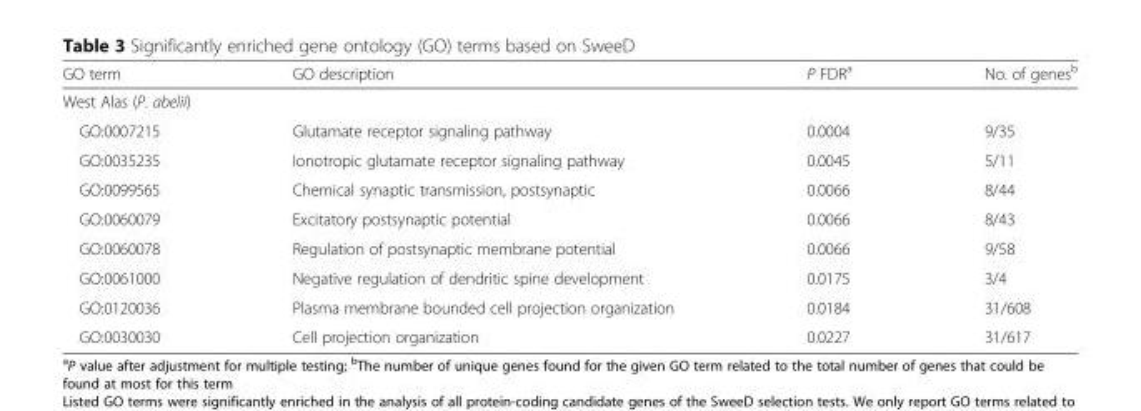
<table><thead><tr><td>GO term</td><td>GO description</td><td>P FDR<sup>a</sup></td><td>No. of genes<sup>b</sup></td></tr></thead><tbody><tr><td colspan="4">West Alas (P. abelii)</td></tr><tr><td>GO:0007215</td><td>Glutamate receptor signaling pathway</td><td>0.0004</td><td>9/35</td></tr><tr><td>GO:0035235</td><td>Ionotropic glutamate receptor signaling pathway</td><td>0.0045</td><td>5/11</td></tr><tr><td>GO:0099565</td><td>Chemical synaptic transmission, postsynaptic</td><td>0.0066</td><td>8/44</td></tr><tr><td>GO:0060079</td><td>Excitatory postsynaptic potential</td><td>0.0066</td><td>8/43</td></tr><tr><td>GO:0060078</td><td>Regulation of postsynaptic membrane potential</td><td>0.0066</td><td>9/58</td></tr><tr><td>GO:0061000</td><td>Negative regulation of dendritic spine development</td><td>0.0175</td><td>3/4</td></tr><tr><td>GO:0120036</td><td>Plasma membrane bounded cell projection organization</td><td>0.0184</td><td>31/608</td></tr><tr><td>GO:0030030</td><td>Cell projection organization</td><td>0.0227</td><td>31/617</td></tr></tbody></table>